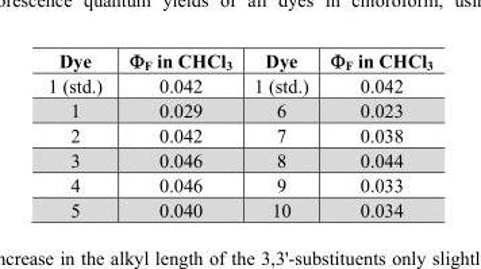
<table><thead><tr><td>Dye</td><td>Φ<sub>F</sub> in CHCl<sub>3</sub></td><td>Dye</td><td>Φ<sub>F</sub> in CHCl<sub>3</sub></td></tr></thead><tbody><tr><td>1 (std.)</td><td>0.042</td><td>1 (std.)</td><td>0.042</td></tr><tr><td>1</td><td>0.029</td><td>6</td><td>0.023</td></tr><tr><td>2</td><td>0.042</td><td>7</td><td>0.038</td></tr><tr><td>3</td><td>0.046</td><td>8</td><td>0.044</td></tr><tr><td>4</td><td>0.046</td><td>9</td><td>0.033</td></tr><tr><td>5</td><td>0.040</td><td>10</td><td>0.034</td></tr></tbody></table>